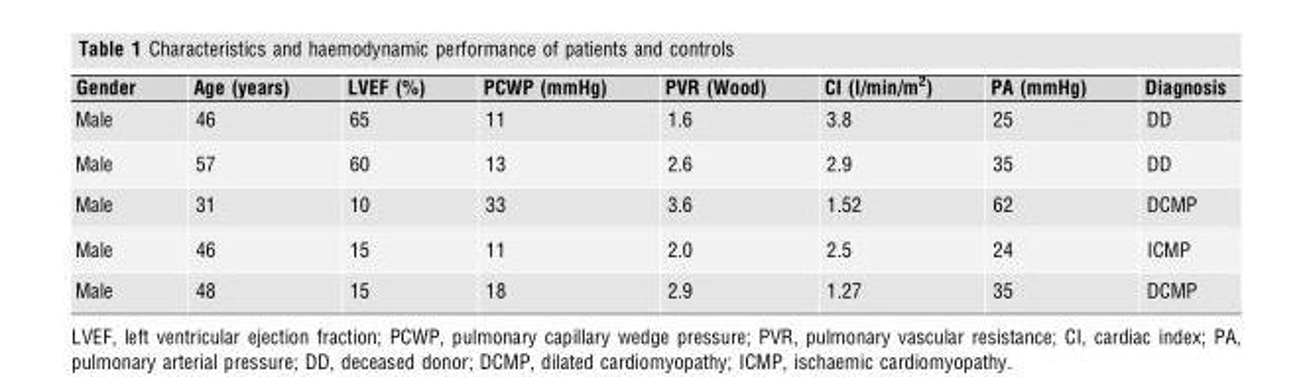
<table><thead><tr><td>Gender</td><td>Age (years)</td><td>LVEF (%)</td><td>PCWP (mmHg)</td><td>PVR (Wood)</td><td>CI (l/min/m<sup>2</sup>)</td><td>PA (mmHg)</td><td>Diagnosis</td></tr></thead><tbody><tr><td>Male</td><td>46</td><td>65</td><td>11</td><td>1.6</td><td>3.8</td><td>25</td><td>DD</td></tr><tr><td>Male</td><td>57</td><td>60</td><td>13</td><td>2.6</td><td>2.9</td><td>35</td><td>DD</td></tr><tr><td>Male</td><td>31</td><td>10</td><td>33</td><td>3.6</td><td>1.52</td><td>62</td><td>DCMP</td></tr><tr><td>Male</td><td>46</td><td>15</td><td>11</td><td>2.0</td><td>2.5</td><td>24</td><td>ICMP</td></tr><tr><td>Male</td><td>48</td><td>15</td><td>18</td><td>2.9</td><td>1.27</td><td>35</td><td>DCMP</td></tr></tbody></table>